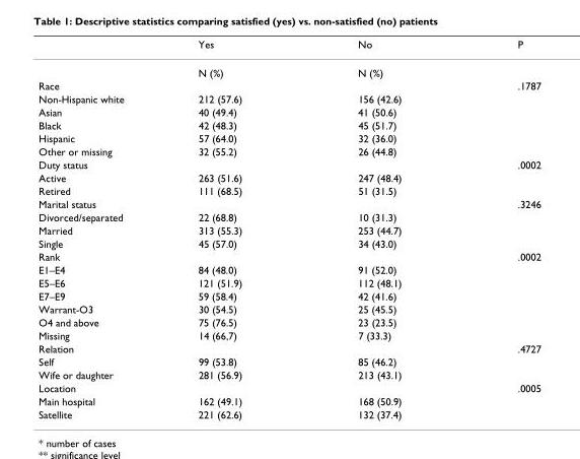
<table><thead><tr><td></td><td>Yes</td><td>No</td><td>P</td></tr></thead><tbody><tr><td></td><td>N (%)</td><td>N (%)</td><td></td></tr><tr><td>Race</td><td></td><td></td><td>.1787</td></tr><tr><td>Non-Hispanic white</td><td>212 (57.6)</td><td>156 (42.6)</td><td></td></tr><tr><td>Asian</td><td>40 (49.4)</td><td>41 (50.6)</td><td></td></tr><tr><td>Black</td><td>42 (48.3)</td><td>45 (51.7)</td><td></td></tr><tr><td>Hispanic</td><td>57 (64.0)</td><td>32 (36.0)</td><td></td></tr><tr><td>Other or missing</td><td>32 (55.2)</td><td>26 (44.8)</td><td></td></tr><tr><td>Duty status</td><td></td><td></td><td>.0002</td></tr><tr><td>Active</td><td>263 (51.6)</td><td>247 (48.4)</td><td></td></tr><tr><td>Retired</td><td>111 (68.5)</td><td>51 (31.5)</td><td></td></tr><tr><td>Marital status</td><td></td><td></td><td>.3246</td></tr><tr><td>Divorced/separated</td><td>22 (68.8)</td><td>10 (31.3)</td><td></td></tr><tr><td>Married</td><td>313 (55.3)</td><td>253 (44.7)</td><td></td></tr><tr><td>Single</td><td>45 (57.0)</td><td>34 (43.0)</td><td></td></tr><tr><td>Rank</td><td></td><td></td><td>.0002</td></tr><tr><td>E1–E4</td><td>84 (48.0)</td><td>91 (52.0)</td><td></td></tr><tr><td>E5–E6</td><td>121 (51.9)</td><td>112 (48.1)</td><td></td></tr><tr><td>E7–E9</td><td>59 (58.4)</td><td>42 (41.6)</td><td></td></tr><tr><td>Warrant-O3</td><td>30 (54.5)</td><td>25 (45.5)</td><td></td></tr><tr><td>O4 and above</td><td>75 (76.5)</td><td>23 (23.5)</td><td></td></tr><tr><td>Missing</td><td>14 (66,7)</td><td>7 (33.3)</td><td></td></tr><tr><td>Relation</td><td></td><td></td><td>.4727</td></tr><tr><td>Self</td><td>99 (53.8)</td><td>85 (46.2)</td><td></td></tr><tr><td>Wife or daughter</td><td>281 (56.9)</td><td>213 (43.1)</td><td></td></tr><tr><td>Location</td><td></td><td></td><td>.0005</td></tr><tr><td>Main hospital</td><td>162 (49.1)</td><td>168 (50.9)</td><td></td></tr><tr><td>Satellite</td><td>221 (62.6)</td><td>132 (37.4)</td><td></td></tr></tbody></table>